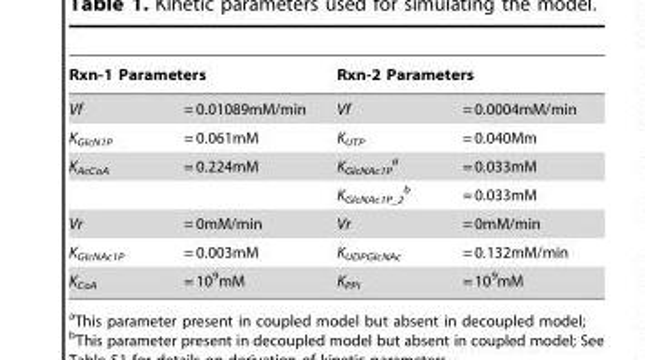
<table><thead><tr><td colspan="2">Rxn-1 Parameters</td><td colspan="2">Rxn-2 Parameters</td></tr><tr><td>Vf</td><td>= 0.01089mM/min</td><td>Vf</td><td>= 0.0004mM/min</td></tr></thead><tbody><tr><td>K<sub>GlcN1P</sub></td><td>= 0.061mM</td><td>K<sub>UTP</sub></td><td>= 0.040Mm</td></tr><tr><td rowspan="2">K<sub>AcCoA</sub></td><td>= 0.224mM</td><td>K<sub>GlcNAc1P</sub> a</td><td>= 0.033mM</td></tr><tr><td></td><td>K<sub>GlcNAc1P_2</sub> <sup>b</sup></td><td>= 0.033mM</td></tr><tr><td>Vr</td><td>= 0mM/min</td><td>Vr</td><td>= 0mM/min</td></tr><tr><td>K<sub>GlcNAc1P</sub></td><td>= 0.003mM</td><td>K<sub>UDPGlcNAc</sub></td><td>= 0.132mM/min</td></tr><tr><td>K<sub>CoA</sub></td><td>= 10<sup>9</sup>mM</td><td>K<sub>PPi</sub></td><td>= 10<sup>9</sup>mM</td></tr></tbody></table>